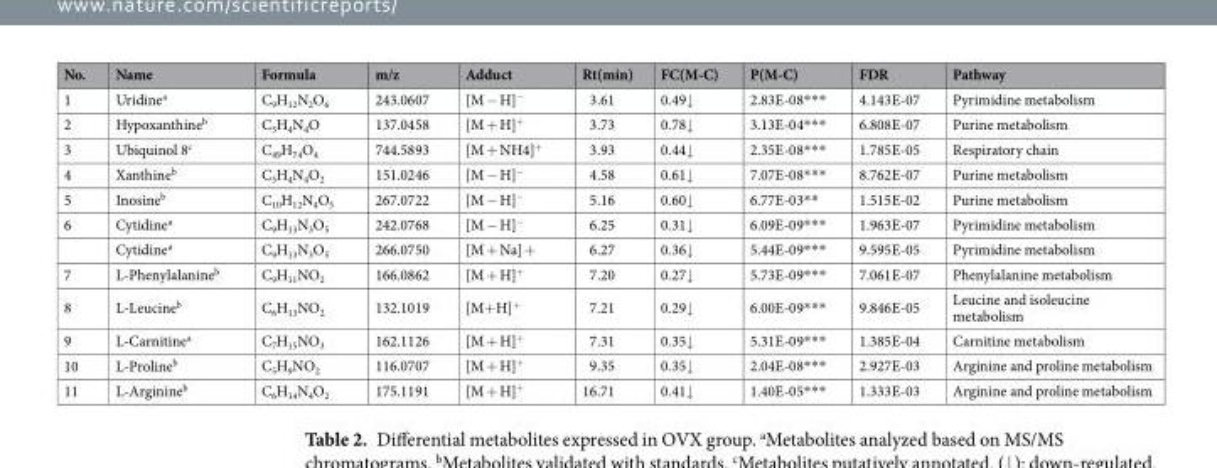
<table><thead><tr><td>No.</td><td>Name</td><td>Formula</td><td>m/z</td><td>Adduct</td><td>Rt(min)</td><td>FC(M-C)</td><td>P(M-C)</td><td>FDR</td><td>Pathway</td></tr></thead><tbody><tr><td>1</td><td>Uridine<sup>a</sup></td><td>C<sub>9</sub>H<sub>12</sub>N<sub>2</sub>O<sub>6</sub></td><td>243.0607</td><td>[M − H]<sup>−</sup></td><td>3.61</td><td>0.49↓</td><td>2.83E-08***</td><td>4.143E-07</td><td>Pyrimidine metabolism</td></tr><tr><td>2</td><td>Hypoxanthine<sup>b</sup></td><td>C<sub>5</sub>H<sub>4</sub>N<sub>4</sub>O</td><td>137.0458</td><td>[M + H]<sup>+</sup></td><td>3.73</td><td>0.78↓</td><td>3.13E-04***</td><td>6.808E-07</td><td>Purine metabolism</td></tr><tr><td>3</td><td>Ubiquinol 8<sup>c</sup></td><td>C<sub>49</sub>H<sub>74</sub>O<sub>4</sub></td><td>744.5893</td><td>[M + NH4]<sup>+</sup></td><td>3.93</td><td>0.44↓</td><td>2.35E-08***</td><td>1.785E-05</td><td>Respiratory chain</td></tr><tr><td>4</td><td>Xanthine<sup>b</sup></td><td>C<sub>5</sub>H<sub>4</sub>N<sub>4</sub>O<sub>2</sub></td><td>151.0246</td><td>[M − H]<sup>−</sup></td><td>4.58</td><td>0.61↓</td><td>7.07E-08***</td><td>8.762E-07</td><td>Purine metabolism</td></tr><tr><td>5</td><td>Inosine<sup>b</sup></td><td>C<sub>10</sub>H<sub>12</sub>N<sub>4</sub>O<sub>5</sub></td><td>267.0722</td><td>[M − H]<sup>−</sup></td><td>5.16</td><td>0.60↓</td><td>6.77E-03**</td><td>1.515E-02</td><td>Purine metabolism</td></tr><tr><td rowspan="2">6</td><td>Cytidine<sup>a</sup></td><td>C<sub>9</sub>H<sub>13</sub>N<sub>3</sub>O<sub>5</sub></td><td>242.0768</td><td>[M − H]<sup>−</sup></td><td>6.25</td><td>0.31↓</td><td>6.09E-09***</td><td>1.963E-07</td><td>Pyrimidine metabolism</td></tr><tr><td>Cytidine<sup>a</sup></td><td>C<sub>9</sub>H<sub>13</sub>N<sub>3</sub>O<sub>5</sub></td><td>266.0750</td><td>[M + Na] +</td><td>6.27</td><td>0.36↓</td><td>5.44E-09***</td><td>9.595E-05</td><td>Pyrimidine metabolism</td></tr><tr><td>7</td><td>L-Phenylalanine<sup>b</sup></td><td>C<sub>9</sub>H<sub>11</sub>NO<sub>2</sub></td><td>166.0862</td><td>[M + H]<sup>+</sup></td><td>7.20</td><td>0.27↓</td><td>5.73E-09***</td><td>7.061E-07</td><td>Phenylalanine metabolism</td></tr><tr><td>8</td><td>L-Leucine<sup>b</sup></td><td>C<sub>6</sub>H<sub>13</sub>NO<sub>2</sub></td><td>132.1019</td><td>[M+H]<sup>+</sup></td><td>7.21</td><td>0.29↓</td><td>6.00E-09***</td><td>9.846E-05</td><td>Leucine and isoleucine metabolism</td></tr><tr><td>9</td><td>L-Carnitine<sup>a</sup></td><td>C<sub>7</sub>H<sub>15</sub>NO<sub>3</sub></td><td>162.1126</td><td>[M + H]<sup>+</sup></td><td>7.31</td><td>0.35↓</td><td>5.31E-09***</td><td>1.385E-04</td><td>Carnitine metabolism</td></tr><tr><td>10</td><td>L-Proline<sup>b</sup></td><td>C<sub>5</sub>H<sub>9</sub>NO<sub>2</sub></td><td>116.0707</td><td>[M + H]<sup>+</sup></td><td>9.35</td><td>0.35↓</td><td>2.04E-08***</td><td>2.927E-03</td><td>Arginine and proline metabolism</td></tr><tr><td>11</td><td>L-Arginine<sup>b</sup></td><td>C<sub>6</sub>H<sub>14</sub>N<sub>4</sub>O<sub>2</sub></td><td>175.1191</td><td>[M + H]<sup>+</sup></td><td>16.71</td><td>0.41↓</td><td>1.40E-05***</td><td>1.333E-03</td><td>Arginine and proline metabolism</td></tr></tbody></table>